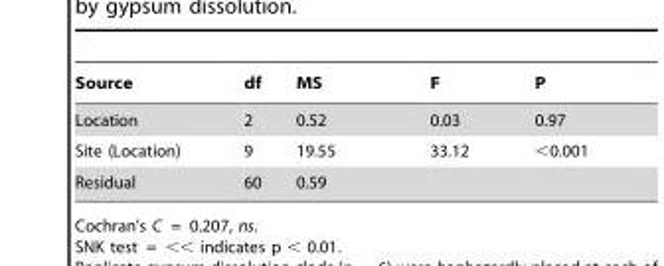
<table><thead><tr><td>Source</td><td>df</td><td>MS</td><td>F</td><td>P</td></tr></thead><tbody><tr><td>Location</td><td>2</td><td>0.52</td><td>0.03</td><td>0.97</td></tr><tr><td>Site (Location)</td><td>9</td><td>19.55</td><td>33.12</td><td>&lt;0.001</td></tr><tr><td>Residual</td><td>60</td><td>0.59</td><td></td><td></td></tr></tbody></table>